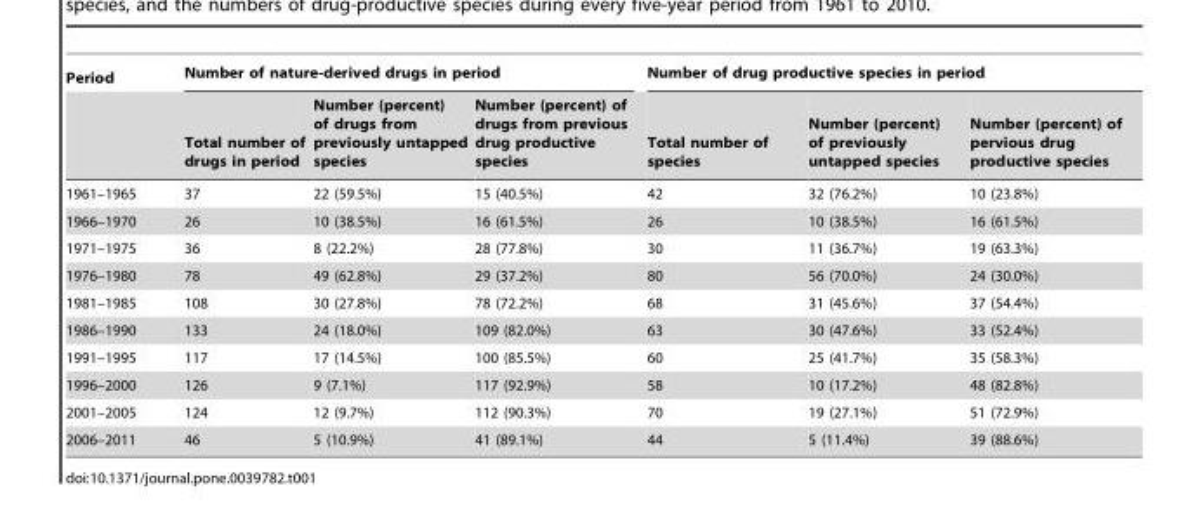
<table><thead><tr><td rowspan="2">Period</td><td colspan="3">Number of nature-derived drugs in period</td><td colspan="3">Number of drug productive species in period</td></tr><tr><td>Total number of drugs in period</td><td>Number (percent) of drugs from previously untapped species</td><td>Number (percent) of drugs from previous drug productive species</td><td>Total number of species</td><td>Number (percent) of previously untapped species</td><td>Number (percent) of pervious drug productive species</td></tr></thead><tbody><tr><td>1961–1965</td><td>37</td><td>22 (59.5%)</td><td>15 (40.5%)</td><td>42</td><td>32 (76.2%)</td><td>10 (23.8%)</td></tr><tr><td>1966–1970</td><td>26</td><td>10 (38.5%)</td><td>16 (61.5%)</td><td>26</td><td>10 (38.5%)</td><td>16 (61.5%)</td></tr><tr><td>1971–1975</td><td>36</td><td>8 (22.2%)</td><td>28 (77.8%)</td><td>30</td><td>11 (36.7%)</td><td>19 (63.3%)</td></tr><tr><td>1976–1980</td><td>78</td><td>49 (62.8%)</td><td>29 (37.2%)</td><td>80</td><td>56 (70.0%)</td><td>24 (30.0%)</td></tr><tr><td>1981–1985</td><td>108</td><td>30 (27.8%)</td><td>78 (72.2%)</td><td>68</td><td>31 (45.6%)</td><td>37 (54.4%)</td></tr><tr><td>1986–1990</td><td>133</td><td>24 (18.0%)</td><td>109 (82.0%)</td><td>63</td><td>30 (47.6%)</td><td>33 (52.4%)</td></tr><tr><td>1991–1995</td><td>117</td><td>17 (14.5%)</td><td>100 (85.5%)</td><td>60</td><td>25 (41.7%)</td><td>35 (58.3%)</td></tr><tr><td>1996–2000</td><td>126</td><td>9 (7.1%)</td><td>117 (92.9%)</td><td>58</td><td>10 (17.2%)</td><td>48 (82.8%)</td></tr><tr><td>2001–2005</td><td>124</td><td>12 (9.7%)</td><td>112 (90.3%)</td><td>70</td><td>19 (27.1%)</td><td>51 (72.9%)</td></tr><tr><td>2006–2011</td><td>46</td><td>5 (10.9%)</td><td>41 (89.1%)</td><td>44</td><td>5 (11.4%)</td><td>39 (88.6%)</td></tr></tbody></table>